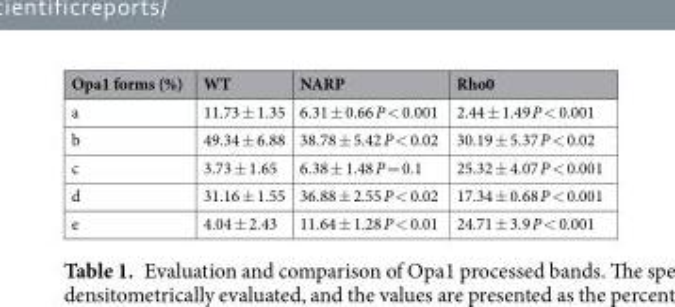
<table><thead><tr><td>Opa1 forms (%)</td><td>WT</td><td>NARP</td><td>Rho0</td></tr></thead><tbody><tr><td>a</td><td>11.73 ± 1.35</td><td>6.31 ± 0.66 P &lt; 0.001</td><td>2.44 ± 1.49 P &lt; 0.001</td></tr><tr><td>b</td><td>49.34 ± 6.88</td><td>38.78 ± 5.42 P &lt; 0.02</td><td>30.19 ± 5.37 P &lt; 0.02</td></tr><tr><td>c</td><td>3.73 ± 1.65</td><td>6.38 ± 1.48 P = 0.1</td><td>25.32 ± 4.07 P &lt; 0.001</td></tr><tr><td>d</td><td>31.16 ± 1.55</td><td>36.88 ± 2.55 P &lt; 0.02</td><td>17.34 ± 0.68 P &lt; 0.001</td></tr><tr><td>e</td><td>4.04 ± 2.43</td><td>11.64 ± 1.28 P &lt; 0.01</td><td>24.71 ± 3.9 P &lt; 0.001</td></tr></tbody></table>